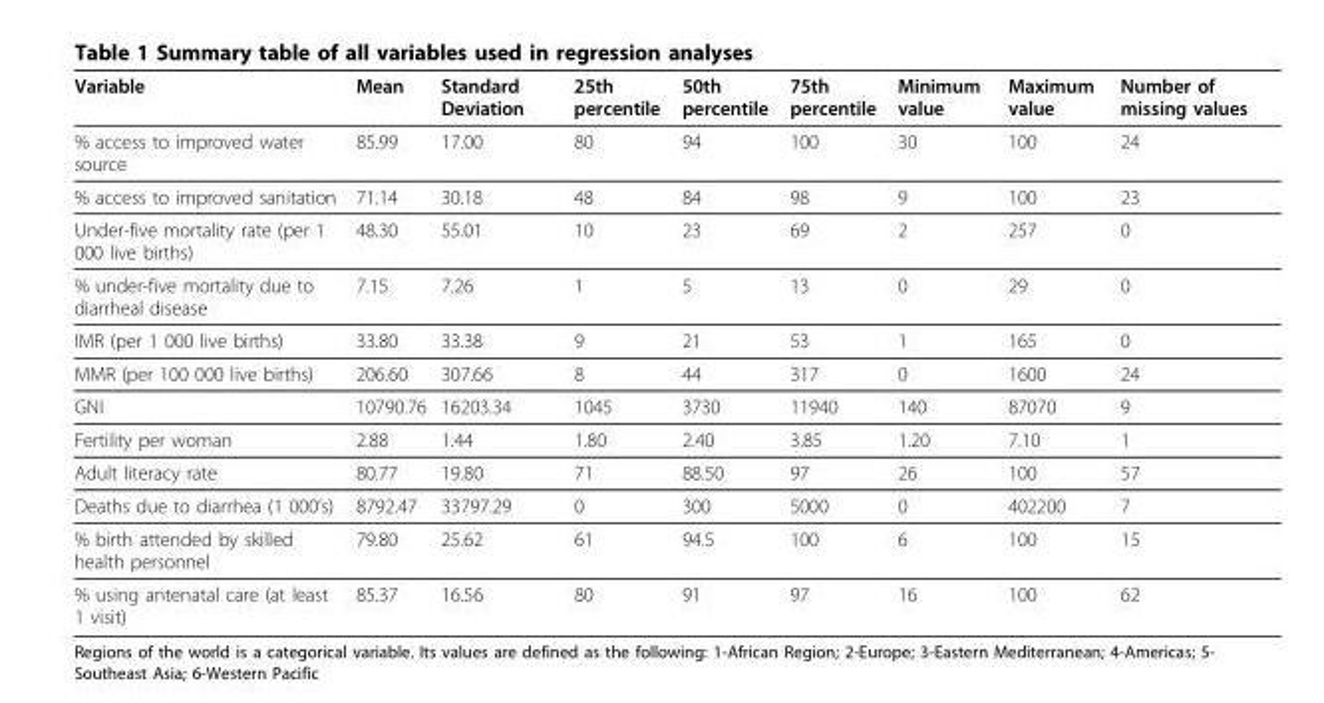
<table><thead><tr><td>Variable</td><td>Mean</td><td>Standard Deviation</td><td>25th percentile</td><td>50th percentile</td><td>75th percentile</td><td>Minimum value</td><td>Maximum value</td><td>Number of missing values</td></tr></thead><tbody><tr><td>% access to improved water source</td><td>85.99</td><td>17.00</td><td>80</td><td>94</td><td>100</td><td>30</td><td>100</td><td>24</td></tr><tr><td>% access to improved sanitation</td><td>71.14</td><td>30.18</td><td>48</td><td>84</td><td>98</td><td>9</td><td>100</td><td>23</td></tr><tr><td>Under-five mortality rate (per 1 000 live births)</td><td>48.30</td><td>55.01</td><td>10</td><td>23</td><td>69</td><td>2</td><td>257</td><td>0</td></tr><tr><td>% under-five mortality due to diarrheal disease</td><td>7.15</td><td>7.26</td><td>1</td><td>5</td><td>13</td><td>0</td><td>29</td><td>0</td></tr><tr><td>IMR (per 1 000 live births)</td><td>33.80</td><td>33.38</td><td>9</td><td>21</td><td>53</td><td>1</td><td>165</td><td>0</td></tr><tr><td>MMR (per 100 000 live births)</td><td>206.60</td><td>307.66</td><td>8</td><td>44</td><td>317</td><td>0</td><td>1600</td><td>24</td></tr><tr><td>GNI</td><td>10790.76</td><td>16203.34</td><td>1045</td><td>3730</td><td>11940</td><td>140</td><td>87070</td><td>9</td></tr><tr><td>Fertility per woman</td><td>2.88</td><td>1.44</td><td>1.80</td><td>2.40</td><td>3.85</td><td>1.20</td><td>7.10</td><td>1</td></tr><tr><td>Adult literacy rate</td><td>80.77</td><td>19.80</td><td>71</td><td>88.50</td><td>97</td><td>26</td><td>100</td><td>57</td></tr><tr><td>Deaths due to diarrhea (1 000’s)</td><td>8792.47</td><td>33797.29</td><td>0</td><td>300</td><td>5000</td><td>0</td><td>402200</td><td>7</td></tr><tr><td>% birth attended by skilled health personnel</td><td>79.80</td><td>25.62</td><td>61</td><td>94.5</td><td>100</td><td>6</td><td>100</td><td>15</td></tr><tr><td>% using antenatal care (at least 1 visit)</td><td>85.37</td><td>16.56</td><td>80</td><td>91</td><td>97</td><td>16</td><td>100</td><td>62</td></tr></tbody></table>